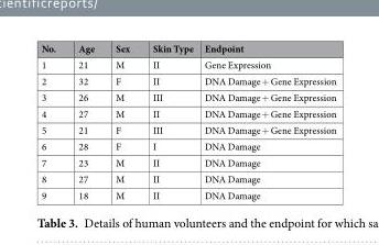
<table><thead><tr><td>No.</td><td>Age</td><td>Sex</td><td>Skin Type</td><td>Endpoint</td></tr></thead><tbody><tr><td>1</td><td>21</td><td>M</td><td>II</td><td>Gene Expression</td></tr><tr><td>2</td><td>32</td><td>F</td><td>II</td><td>DNA Damage + Gene Expression</td></tr><tr><td>3</td><td>26</td><td>M</td><td>III</td><td>DNA Damage + Gene Expression</td></tr><tr><td>4</td><td>27</td><td>M</td><td>II</td><td>DNA Damage + Gene Expression</td></tr><tr><td>5</td><td>21</td><td>F</td><td>III</td><td>DNA Damage + Gene Expression</td></tr><tr><td>6</td><td>28</td><td>F</td><td>I</td><td>DNA Damage</td></tr><tr><td>7</td><td>23</td><td>M</td><td>II</td><td>DNA Damage</td></tr><tr><td>8</td><td>27</td><td>M</td><td>II</td><td>DNA Damage</td></tr><tr><td>9</td><td>18</td><td>M</td><td>II</td><td>DNA Damage</td></tr></tbody></table>